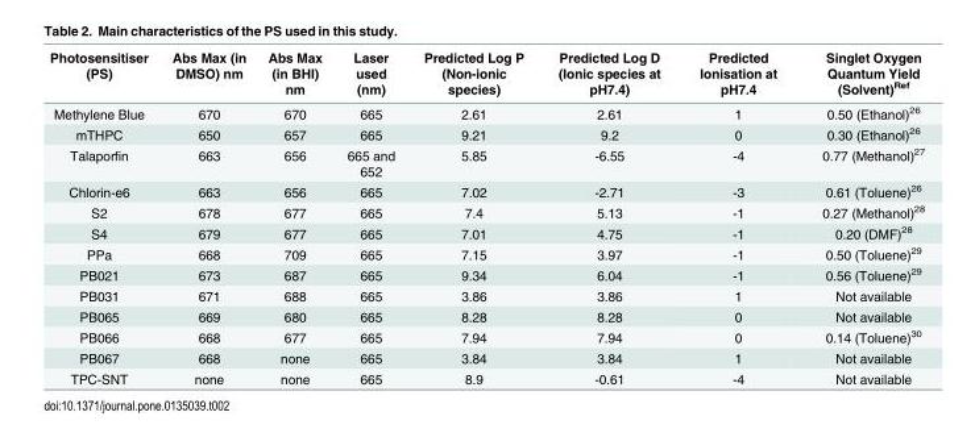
<table><thead><tr><td>Photosensitiser (PS)</td><td>Abs Max (in DMSO) nm</td><td>Abs Max (in BHI) nm</td><td>Laser used (nm)</td><td>Predicted Log P (Non-ionic species)</td><td>Predicted Log D (Ionic species at pH7.4)</td><td>Predicted Ionisation at pH7.4</td><td>Singlet Oxygen Quantum Yield (Solvent)<sup>Ref</sup></td></tr></thead><tbody><tr><td>Methylene Blue</td><td>670</td><td>670</td><td>665</td><td>2.61</td><td>2.61</td><td>1</td><td>0.50 (Ethanol)<sup>26</sup></td></tr><tr><td>mTHPC</td><td>650</td><td>657</td><td>665</td><td>9.21</td><td>9.2</td><td>0</td><td>0.30 (Ethanol)<sup>26</sup></td></tr><tr><td>Talaporfin</td><td>663</td><td>656</td><td>665 and 652</td><td>5.85</td><td>-6.55</td><td>-4</td><td>0.77 (Methanol)<sup>27</sup></td></tr><tr><td>Chlorin-e6</td><td>663</td><td>656</td><td>665</td><td>7.02</td><td>-2.71</td><td>-3</td><td>0.61 (Toluene)<sup>26</sup></td></tr><tr><td>S2</td><td>678</td><td>677</td><td>665</td><td>7.4</td><td>5.13</td><td>-1</td><td>0.27 (Methanol)<sup>28</sup></td></tr><tr><td>S4</td><td>679</td><td>677</td><td>665</td><td>7.01</td><td>4.75</td><td>-1</td><td>0.20 (DMF)<sup>28</sup></td></tr><tr><td>PPa</td><td>668</td><td>709</td><td>665</td><td>7.15</td><td>3.97</td><td>-1</td><td>0.50 (Toluene)<sup>29</sup></td></tr><tr><td>PB021</td><td>673</td><td>687</td><td>665</td><td>9.34</td><td>6.04</td><td>-1</td><td>0.56 (Toluene)<sup>29</sup></td></tr><tr><td>PB031</td><td>671</td><td>688</td><td>665</td><td>3.86</td><td>3.86</td><td>1</td><td>Not available</td></tr><tr><td>PB065</td><td>669</td><td>680</td><td>665</td><td>8.28</td><td>8.28</td><td>0</td><td>Not available</td></tr><tr><td>PB066</td><td>668</td><td>677</td><td>665</td><td>7.94</td><td>7.94</td><td>0</td><td>0.14 (Toluene)<sup>30</sup></td></tr><tr><td>PB067</td><td>668</td><td>none</td><td>665</td><td>3.84</td><td>3.84</td><td>1</td><td>Not available</td></tr><tr><td>TPC-SNT</td><td>none</td><td>none</td><td>665</td><td>8.9</td><td>-0.61</td><td>-4</td><td>Not available</td></tr></tbody></table>